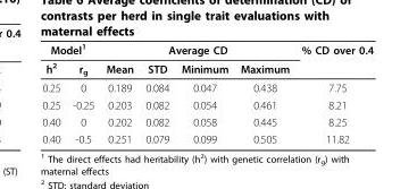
<table><thead><tr><td colspan="2">Model<sup>1</sup></td><td colspan="4">Average CD</td><td rowspan="2">% CD over 0.4</td></tr><tr><td>h<sup>2</sup></td><td>r<sub>g</sub></td><td>Mean</td><td>STD</td><td>Minimum</td><td>Maximum</td></tr></thead><tbody><tr><td>0.25</td><td>0</td><td>0.189</td><td>0.084</td><td>0.047</td><td>0.438</td><td>7.75</td></tr><tr><td>0.25</td><td>-0.25</td><td>0.203</td><td>0.082</td><td>0.054</td><td>0.461</td><td>8.21</td></tr><tr><td>0.40</td><td>0</td><td>0.202</td><td>0.082</td><td>0.058</td><td>0.445</td><td>8.25</td></tr><tr><td>0.40</td><td>-0.5</td><td>0.251</td><td>0.079</td><td>0.099</td><td>0.505</td><td>11.82</td></tr></tbody></table>